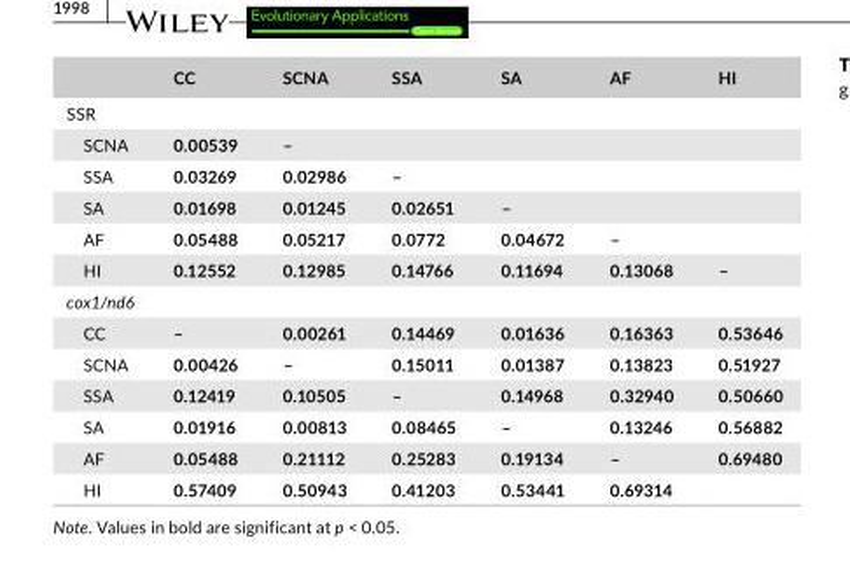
<table><thead><tr><td></td><td>CC</td><td>SCNA</td><td>SSA</td><td>SA</td><td>AF</td><td>HI</td></tr></thead><tbody><tr><td colspan="7">SSR</td></tr><tr><td>SCNA</td><td>0.00539</td><td>–</td><td></td><td></td><td></td><td></td></tr><tr><td>SSA</td><td>0.03269</td><td>0.02986</td><td>–</td><td></td><td></td><td></td></tr><tr><td>SA</td><td>0.01698</td><td>0.01245</td><td>0.02651</td><td>–</td><td></td><td></td></tr><tr><td>AF</td><td>0.05488</td><td>0.05217</td><td>0.0772</td><td>0.04672</td><td>–</td><td></td></tr><tr><td>HI</td><td>0.12552</td><td>0.12985</td><td>0.14766</td><td>0.11694</td><td>0.13068</td><td>–</td></tr><tr><td colspan="7">cox1/nd6</td></tr><tr><td>CC</td><td>–</td><td>0.00261</td><td>0.14469</td><td>0.01636</td><td>0.16363</td><td>0.53646</td></tr><tr><td>SCNA</td><td>0.00426</td><td>–</td><td>0.15011</td><td>0.01387</td><td>0.13823</td><td>0.51927</td></tr><tr><td>SSA</td><td>0.12419</td><td>0.10505</td><td>–</td><td>0.14968</td><td>0.32940</td><td>0.50660</td></tr><tr><td>SA</td><td>0.01916</td><td>0.00813</td><td>0.08465</td><td>–</td><td>0.13246</td><td>0.56882</td></tr><tr><td>AF</td><td>0.05488</td><td>0.21112</td><td>0.25283</td><td>0.19134</td><td>–</td><td>0.69480</td></tr><tr><td>HI</td><td>0.57409</td><td>0.50943</td><td>0.41203</td><td>0.53441</td><td>0.69314</td><td></td></tr></tbody></table>